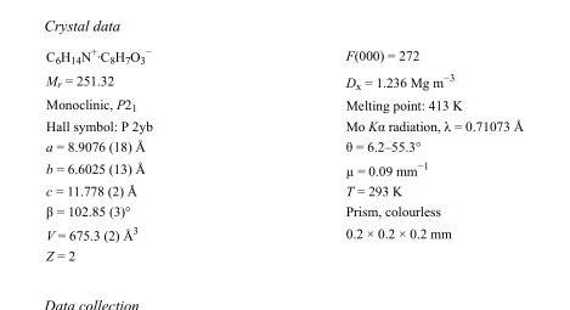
<table><tbody><tr><td>C<sub>6</sub>H<sub>14</sub>N<sup>+</sup>·C<sub>8</sub>H<sub>7</sub>O<sub>3</sub> <sup>−</sup></td><td>F(000) = 272</td></tr><tr><td>M<sub>r</sub> = 251.32</td><td>D<sub>x</sub> = 1.236 Mg m<sup>−3</sup></td></tr><tr><td>Monoclinic, P2<sub>1</sub></td><td>Melting point: 413 K</td></tr><tr><td>Hall symbol: P 2yb</td><td>Mo Kα radiation, λ = 0.71073 Å</td></tr><tr><td>a = 8.9076 (18) Å</td><td>θ = 6.2–55.3°</td></tr><tr><td>b = 6.6025 (13) Å</td><td>µ = 0.09 mm<sup>−1</sup></td></tr><tr><td>c = 11.778 (2) Å</td><td>T = 293 K</td></tr><tr><td>β = 102.85 (3)°</td><td>Prism, colourless</td></tr><tr><td>V = 675.3 (2) Å<sup>3</sup></td><td>0.2 × 0.2 × 0.2 mm</td></tr><tr><td>Z = 2</td><td></td></tr></tbody></table>